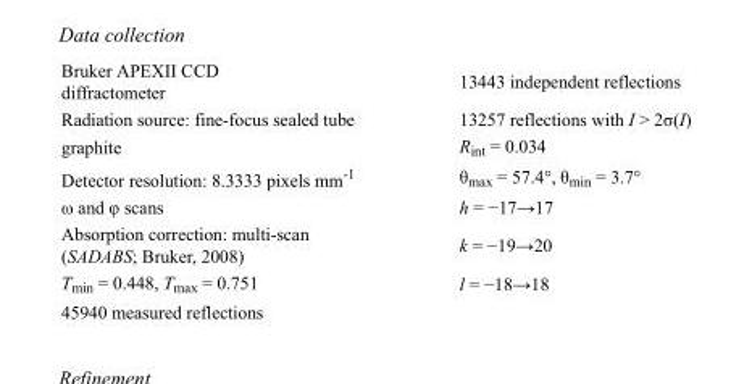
<table><tbody><tr><td>Bruker APEXII CCD diffractometer</td><td>13443 independent reflections</td></tr><tr><td>Radiation source: fine-focus sealed tube</td><td>13257 reflections with I &gt; 2σ(I)</td></tr><tr><td>graphite</td><td>R<sub>int</sub> = 0.034</td></tr><tr><td>Detector resolution: 8.3333 pixels mm<sup>-1</sup></td><td>θ<sub>max</sub> = 57.4°, θ<sub>min</sub> = 3.7°</td></tr><tr><td>ω and φ scans</td><td>h = −17→17</td></tr><tr><td>Absorption correction: multi-scan (SADABS; Bruker, 2008)</td><td>k = −19→20</td></tr><tr><td>T<sub>min</sub> = 0.448, T<sub>max</sub> = 0.751</td><td>l = −18→18</td></tr><tr><td>45940 measured reflections</td><td></td></tr></tbody></table>